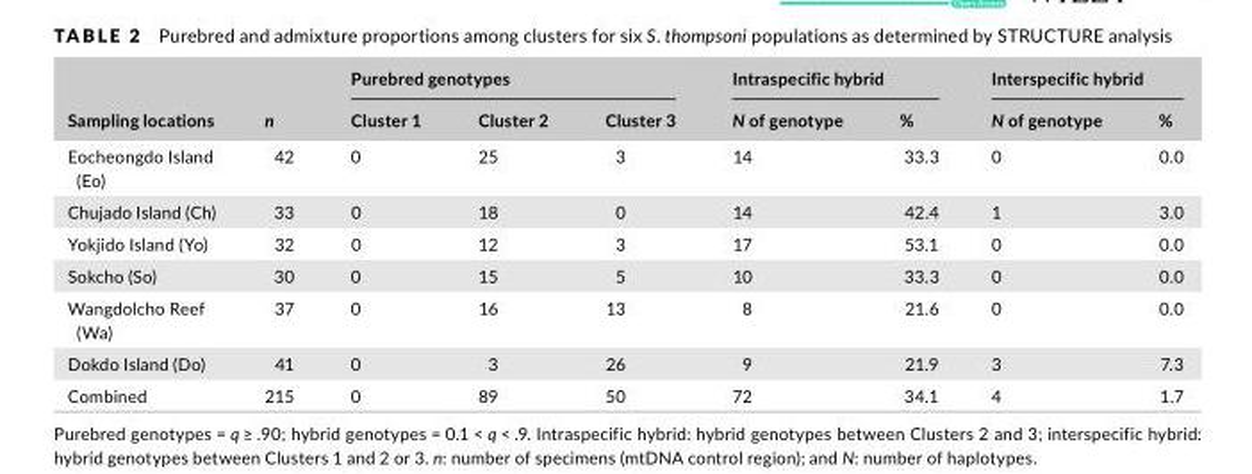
<table><thead><tr><td rowspan="2">Sampling locations</td><td rowspan="2">n</td><td colspan="3">Purebred genotypes</td><td colspan="2">Intraspecific hybrid</td><td colspan="2">Interspecific hybrid</td></tr><tr><td>Cluster 1</td><td>Cluster 2</td><td>Cluster 3</td><td>N of genotype</td><td>%</td><td>N of genotype</td><td>%</td></tr></thead><tbody><tr><td>Eocheongdo Island (Eo)</td><td>42</td><td>0</td><td>25</td><td>3</td><td>14</td><td>33.3</td><td>0</td><td>0.0</td></tr><tr><td>Chujado Island (Ch)</td><td>33</td><td>0</td><td>18</td><td>0</td><td>14</td><td>42.4</td><td>1</td><td>3.0</td></tr><tr><td>Yokjido Island (Yo)</td><td>32</td><td>0</td><td>12</td><td>3</td><td>17</td><td>53.1</td><td>0</td><td>0.0</td></tr><tr><td>Sokcho (So)</td><td>30</td><td>0</td><td>15</td><td>5</td><td>10</td><td>33.3</td><td>0</td><td>0.0</td></tr><tr><td>Wangdolcho Reef (Wa)</td><td>37</td><td>0</td><td>16</td><td>13</td><td>8</td><td>21.6</td><td>0</td><td>0.0</td></tr><tr><td>Dokdo Island (Do)</td><td>41</td><td>0</td><td>3</td><td>26</td><td>9</td><td>21.9</td><td>3</td><td>7.3</td></tr><tr><td>Combined</td><td>215</td><td>0</td><td>89</td><td>50</td><td>72</td><td>34.1</td><td>4</td><td>1.7</td></tr></tbody></table>